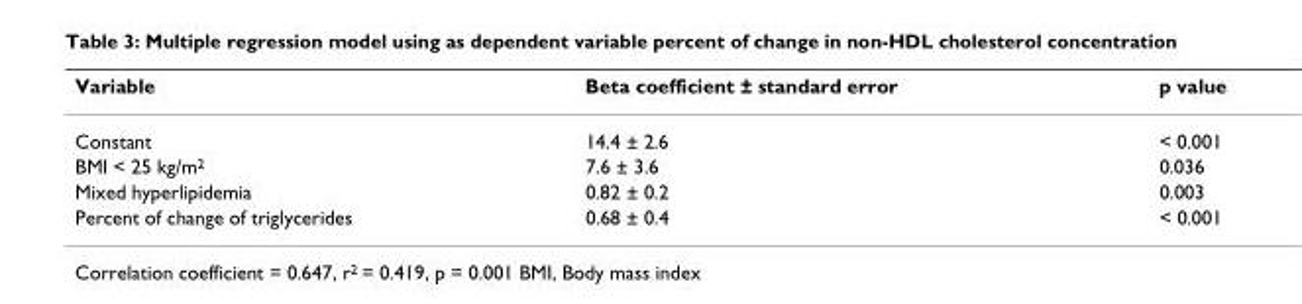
<table><thead><tr><td>Variable</td><td>Beta coefficient ± standard error</td><td>p value</td></tr></thead><tbody><tr><td>Constant</td><td>14.4 ± 2.6</td><td>&lt; 0.001</td></tr><tr><td>BMI &lt; 25 kg/m<sup>2</sup></td><td>7.6 ± 3.6</td><td>0.036</td></tr><tr><td>Mixed hyperlipidemia</td><td>0.82 ± 0.2</td><td>0.003</td></tr><tr><td>Percent of change of triglycerides</td><td>0.68 ± 0.4</td><td>&lt; 0.001</td></tr></tbody></table>